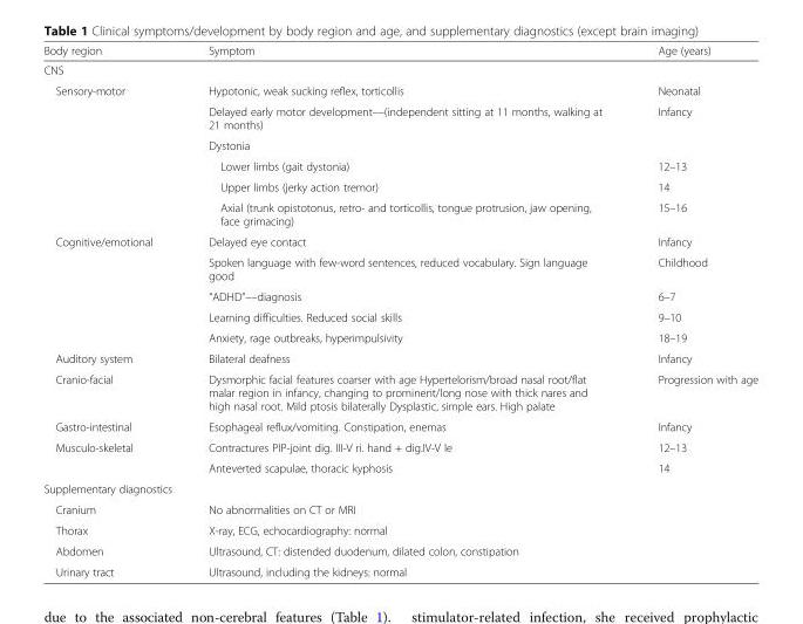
<table><thead><tr><td>Body region</td><td>Symptom</td><td>Age (years)</td></tr></thead><tbody><tr><td colspan="3">CNS</td></tr><tr><td rowspan="6">Sensory-motor</td><td>Hypotonic, weak sucking reflex, torticollis</td><td>Neonatal</td></tr><tr><td>Delayed early motor development––(independent sitting at 11 months, walking at 21 months)</td><td>Infancy</td></tr><tr><td>Dystonia</td><td></td></tr><tr><td>Lower limbs (gait dystonia)</td><td>12–13</td></tr><tr><td>Upper limbs (jerky action tremor)</td><td>14</td></tr><tr><td>Axial (trunk opistotonus, retro- and torticollis, tongue protrusion, jaw opening, face grimacing)</td><td>15–16</td></tr><tr><td rowspan="5">Cognitive/emotional</td><td>Delayed eye contact</td><td>Infancy</td></tr><tr><td>Spoken language with few-word sentences, reduced vocabulary. Sign language good</td><td>Childhood</td></tr><tr><td>“ADHD”––diagnosis</td><td>6–7</td></tr><tr><td>Learning difficulties. Reduced social skills</td><td>9–10</td></tr><tr><td>Anxiety, rage outbreaks, hyperimpulsivity</td><td>18–19</td></tr><tr><td>Auditory system</td><td>Bilateral deafness</td><td>Infancy</td></tr><tr><td>Cranio-facial</td><td>Dysmorphic facial features coarser with age Hypertelorism/broad nasal root/flat malar region in infancy, changing to prominent/long nose with thick nares and high nasal root. Mild ptosis bilaterally Dysplastic, simple ears. High palate</td><td>Progression with age</td></tr><tr><td>Gastro-intestinal</td><td>Esophageal reflux/vomiting. Constipation, enemas</td><td>Infancy</td></tr><tr><td rowspan="2">Musculo-skeletal</td><td>Contractures PIP-joint dig. III-V ri. hand + dig.IV-V le</td><td>12–13</td></tr><tr><td>Anteverted scapulae, thoracic kyphosis</td><td>14</td></tr><tr><td colspan="3">Supplementary diagnostics</td></tr><tr><td>Cranium</td><td colspan="2">No abnormalities on CT or MRI</td></tr><tr><td>Thorax</td><td colspan="2">X-ray, ECG, echocardiography: normal</td></tr><tr><td>Abdomen</td><td colspan="2">Ultrasound, CT: distended duodenum, dilated colon, constipation</td></tr><tr><td>Urinary tract</td><td colspan="2">Ultrasound, including the kidneys: normal</td></tr></tbody></table>